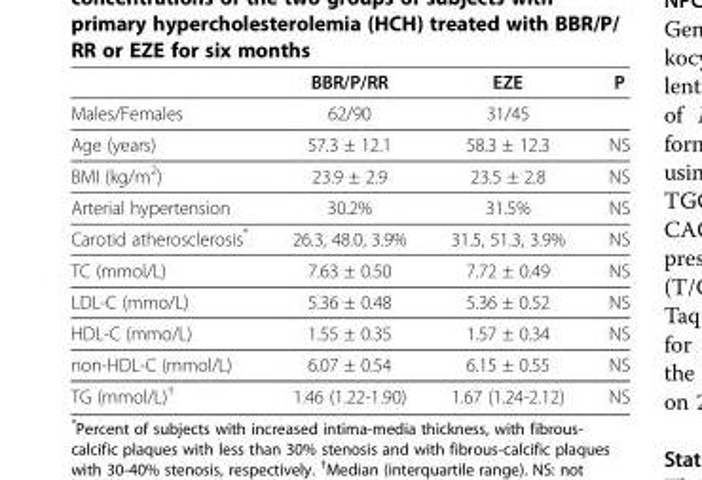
<table><thead><tr><td></td><td>BBR/P/RR</td><td>EZE</td><td>P</td></tr></thead><tbody><tr><td>Males/Females</td><td>62/90</td><td>31/45</td><td></td></tr><tr><td>Age (years)</td><td>57.3 ± 12.1</td><td>58.3 ± 12.3</td><td>NS</td></tr><tr><td>BMI (kg/m<sup>2</sup>)</td><td>23.9 ± 2.9</td><td>23.5 ± 2.8</td><td>NS</td></tr><tr><td>Arterial hypertension</td><td>30.2%</td><td>31.5%</td><td>NS</td></tr><tr><td>Carotid atherosclerosis*</td><td>26.3, 48.0, 3.9%</td><td>31.5, 51.3, 3.9%</td><td>NS</td></tr><tr><td>TC (mmol/L)</td><td>7.63 ± 0.50</td><td>7.72 ± 0.49</td><td>NS</td></tr><tr><td>LDL-C (mmo/L)</td><td>5.36 ± 0.48</td><td>5.36 ± 0.52</td><td>NS</td></tr><tr><td>HDL-C (mmo/L)</td><td>1.55 ± 0.35</td><td>1.57 ± 0.34</td><td>NS</td></tr><tr><td>non-HDL-C (mmol/L)</td><td>6.07 ± 0.54</td><td>6.15 ± 0.55</td><td>NS</td></tr><tr><td>TG (mmol/L)<sup>†</sup></td><td>1.46 (1.22-1.90)</td><td>1.67 (1.24-2.12)</td><td>NS</td></tr></tbody></table>